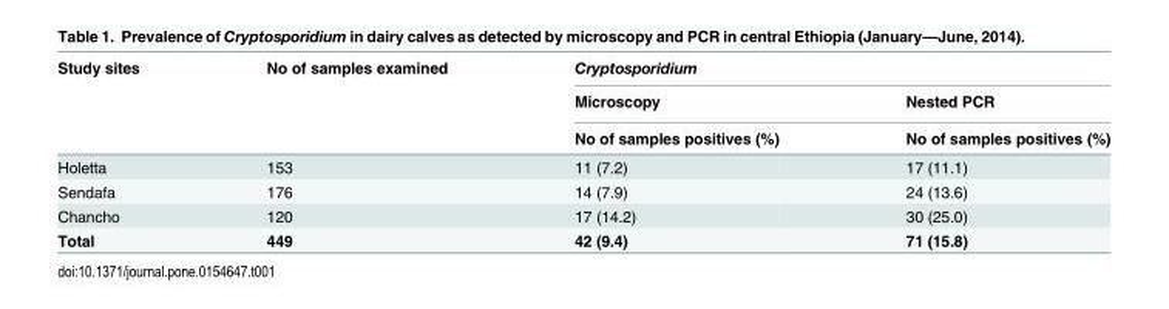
<table><thead><tr><td rowspan="3">Study sites</td><td rowspan="3">No of samples examined</td><td colspan="2">Cryptosporidium</td></tr><tr><td rowspan="2">Microscopy No of samples positives (%)</td><td rowspan="2">Nested PCR No of samples positives (%)</td></tr><tr></tr></thead><tbody><tr><td>Holetta</td><td>153</td><td>11 (7.2)</td><td>17 (11.1)</td></tr><tr><td>Sendafa</td><td>176</td><td>14 (7.9)</td><td>24 (13.6)</td></tr><tr><td>Chancho</td><td>120</td><td>17 (14.2)</td><td>30 (25.0)</td></tr><tr><td>Total</td><td>449</td><td>42 (9.4)</td><td>71 (15.8)</td></tr></tbody></table>